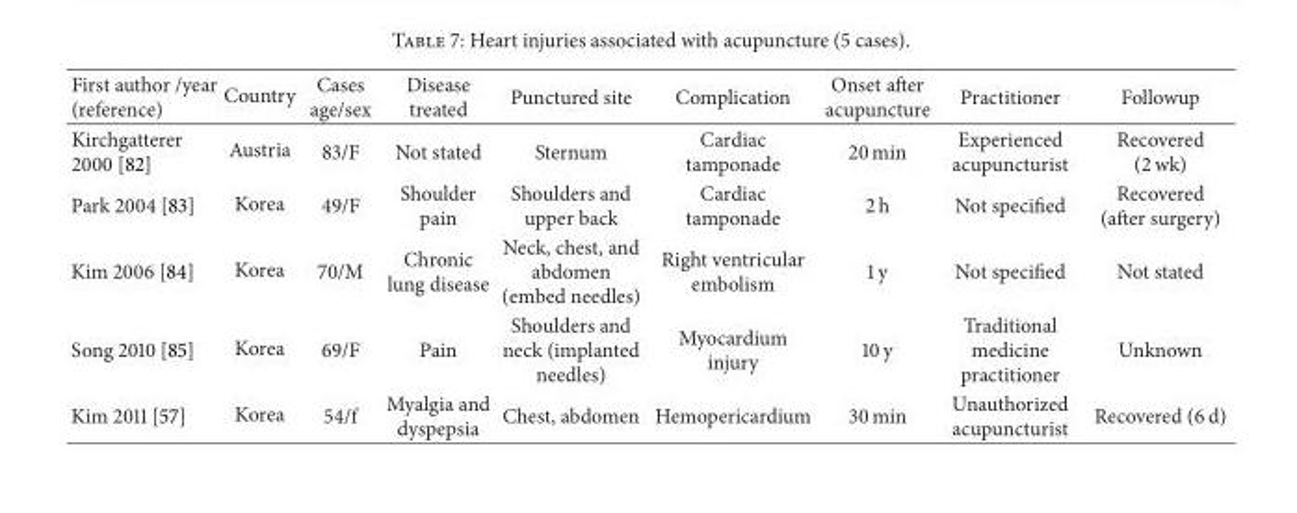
<table><thead><tr><td>First author /year (reference)</td><td>Country</td><td>Cases age/sex</td><td>Disease treated</td><td>Punctured site</td><td>Complication</td><td>Onset after acupuncture</td><td>Practitioner</td><td>Followup</td></tr></thead><tbody><tr><td>Kirchgatterer 2000 [82]</td><td>Austria</td><td>83/F</td><td>Not stated</td><td>Sternum</td><td>Cardiac tamponade</td><td>20 min</td><td>Experienced acupuncturist</td><td>Recovered (2 wk)</td></tr><tr><td>Park 2004 [83]</td><td>Korea</td><td>49/F</td><td>Shoulder pain</td><td>Shoulders and upper back</td><td>Cardiac tamponade</td><td>2 h</td><td>Not specified</td><td>Recovered (after surgery)</td></tr><tr><td>Kim 2006 [84]</td><td>Korea</td><td>70/M</td><td>Chronic lung disease</td><td>Neck, chest, and abdomen (embed needles)</td><td>Right ventricular embolism</td><td>1 y</td><td>Not specified</td><td>Not stated</td></tr><tr><td>Song 2010 [85]</td><td>Korea</td><td>69/F</td><td>Pain</td><td>Shoulders and neck (implanted needles)</td><td>Myocardium injury</td><td>10 y</td><td>Traditional medicine practitioner</td><td>Unknown</td></tr><tr><td>Kim 2011 [57]</td><td>Korea</td><td>54/f</td><td>Myalgia and dyspepsia</td><td>Chest, abdomen</td><td>Hemopericardium</td><td>30 min</td><td>Unauthorized acupuncturist</td><td>Recovered (6 d)</td></tr></tbody></table>